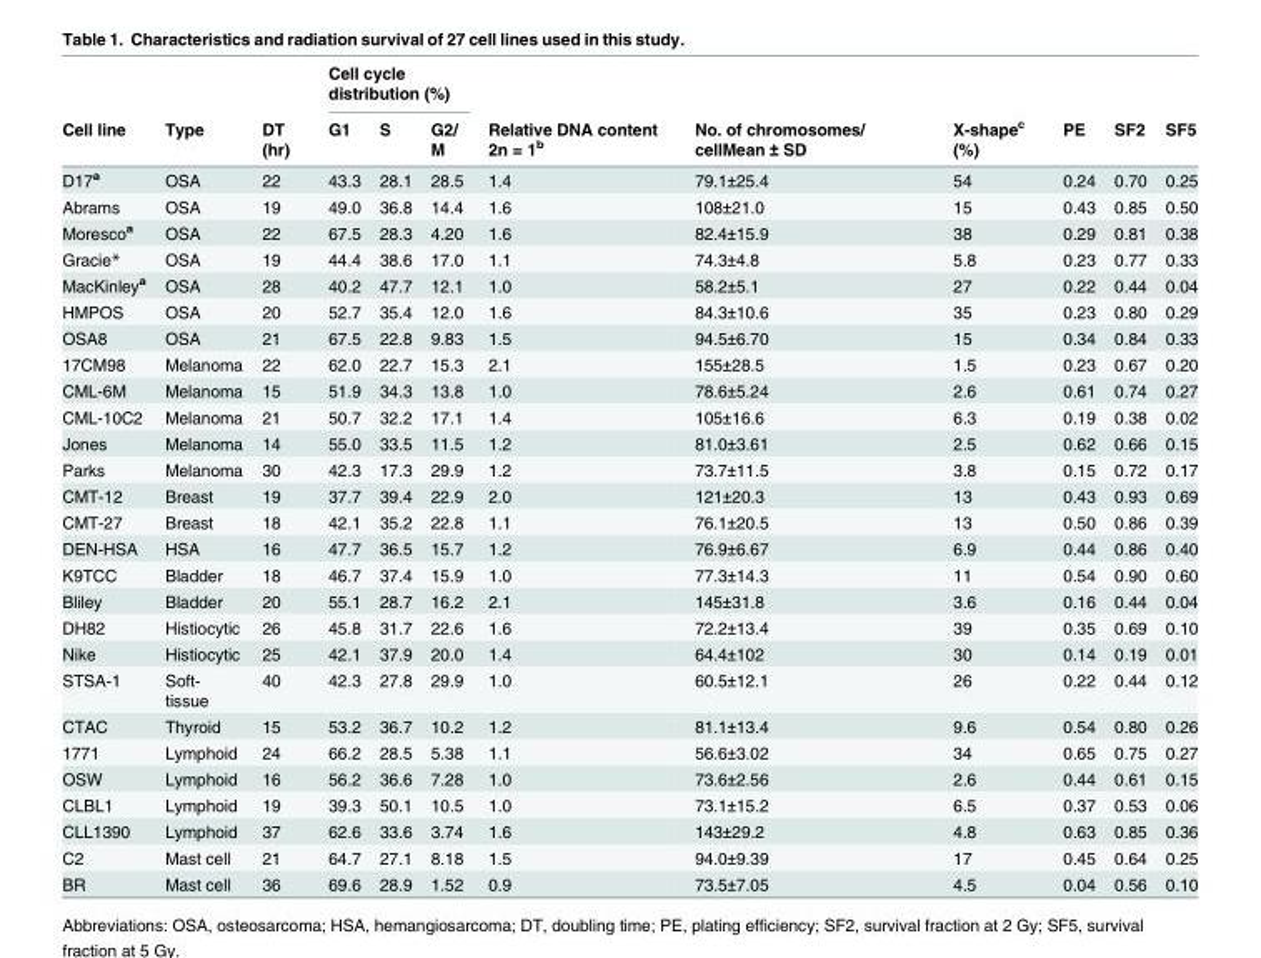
<table><thead><tr><td rowspan="2">Cell line</td><td rowspan="2">Type</td><td rowspan="2">DT (hr)</td><td colspan="3">Cell cycle distribution (%)</td><td rowspan="2">Relative DNA content 2n = 1<sup>b</sup></td><td rowspan="2">No. of chromosomes/ cellMean ± SD</td><td rowspan="2">X-shape<sup>c</sup> (%)</td><td rowspan="2">PE</td><td rowspan="2">SF2</td><td rowspan="2">SF5</td></tr><tr><td>G1</td><td>S</td><td>G2/ M</td></tr></thead><tbody><tr><td>D17<sup>a</sup></td><td>OSA</td><td>22</td><td>43.3</td><td>28.1</td><td>28.5</td><td>1.4</td><td>79.1±25.4</td><td>54</td><td>0.24</td><td>0.70</td><td>0.25</td></tr><tr><td>Abrams</td><td>OSA</td><td>19</td><td>49.0</td><td>36.8</td><td>14.4</td><td>1.6</td><td>108±21.0</td><td>15</td><td>0.43</td><td>0.85</td><td>0.50</td></tr><tr><td>Moresco<sup>a</sup></td><td>OSA</td><td>22</td><td>67.5</td><td>28.3</td><td>4.20</td><td>1.6</td><td>82.4±15.9</td><td>38</td><td>0.29</td><td>0.81</td><td>0.38</td></tr><tr><td>Gracie*</td><td>OSA</td><td>19</td><td>44.4</td><td>38.6</td><td>17.0</td><td>1.1</td><td>74.3±4.8</td><td>5.8</td><td>0.23</td><td>0.77</td><td>0.33</td></tr><tr><td>MacKinley<sup>a</sup></td><td>OSA</td><td>28</td><td>40.2</td><td>47.7</td><td>12.1</td><td>1.0</td><td>58.2±5.1</td><td>27</td><td>0.22</td><td>0.44</td><td>0.04</td></tr><tr><td>HMPOS</td><td>OSA</td><td>20</td><td>52.7</td><td>35.4</td><td>12.0</td><td>1.6</td><td>84.3±10.6</td><td>35</td><td>0.23</td><td>0.80</td><td>0.29</td></tr><tr><td>OSA8</td><td>OSA</td><td>21</td><td>67.5</td><td>22.8</td><td>9.83</td><td>1.5</td><td>94.5±6.70</td><td>15</td><td>0.34</td><td>0.84</td><td>0.33</td></tr><tr><td>17CM98</td><td>Melanoma</td><td>22</td><td>62.0</td><td>22.7</td><td>15.3</td><td>2.1</td><td>155±28.5</td><td>1.5</td><td>0.23</td><td>0.67</td><td>0.20</td></tr><tr><td>CML-6M</td><td>Melanoma</td><td>15</td><td>51.9</td><td>34.3</td><td>13.8</td><td>1.0</td><td>78.6±5.24</td><td>2.6</td><td>0.61</td><td>0.74</td><td>0.27</td></tr><tr><td>CML-10C2</td><td>Melanoma</td><td>21</td><td>50.7</td><td>32.2</td><td>17.1</td><td>1.4</td><td>105±16.6</td><td>6.3</td><td>0.19</td><td>0.38</td><td>0.02</td></tr><tr><td>Jones</td><td>Melanoma</td><td>14</td><td>55.0</td><td>33.5</td><td>11.5</td><td>1.2</td><td>81.0±3.61</td><td>2.5</td><td>0.62</td><td>0.66</td><td>0.15</td></tr><tr><td>Parks</td><td>Melanoma</td><td>30</td><td>42.3</td><td>17.3</td><td>29.9</td><td>1.2</td><td>73.7±11.5</td><td>3.8</td><td>0.15</td><td>0.72</td><td>0.17</td></tr><tr><td>CMT-12</td><td>Breast</td><td>19</td><td>37.7</td><td>39.4</td><td>22.9</td><td>2.0</td><td>121±20.3</td><td>13</td><td>0.43</td><td>0.93</td><td>0.69</td></tr><tr><td>CMT-27</td><td>Breast</td><td>18</td><td>42.1</td><td>35.2</td><td>22.8</td><td>1.1</td><td>76.1±20.5</td><td>13</td><td>0.50</td><td>0.86</td><td>0.39</td></tr><tr><td>DEN-HSA</td><td>HSA</td><td>16</td><td>47.7</td><td>36.5</td><td>15.7</td><td>1.2</td><td>76.9±6.67</td><td>6.9</td><td>0.44</td><td>0.86</td><td>0.40</td></tr><tr><td>K9TCC</td><td>Bladder</td><td>18</td><td>46.7</td><td>37.4</td><td>15.9</td><td>1.0</td><td>77.3±14.3</td><td>11</td><td>0.54</td><td>0.90</td><td>0.60</td></tr><tr><td>Bliley</td><td>Bladder</td><td>20</td><td>55.1</td><td>28.7</td><td>16.2</td><td>2.1</td><td>145±31.8</td><td>3.6</td><td>0.16</td><td>0.44</td><td>0.04</td></tr><tr><td>DH82</td><td>Histiocytic</td><td>26</td><td>45.8</td><td>31.7</td><td>22.6</td><td>1.6</td><td>72.2±13.4</td><td>39</td><td>0.35</td><td>0.69</td><td>0.10</td></tr><tr><td>Nike</td><td>Histiocytic</td><td>25</td><td>42.1</td><td>37.9</td><td>20.0</td><td>1.4</td><td>64.4±102</td><td>30</td><td>0.14</td><td>0.19</td><td>0.01</td></tr><tr><td>STSA-1</td><td>Soft- tissue</td><td>40</td><td>42.3</td><td>27.8</td><td>29.9</td><td>1.0</td><td>60.5±12.1</td><td>26</td><td>0.22</td><td>0.44</td><td>0.12</td></tr><tr><td>CTAC</td><td>Thyroid</td><td>15</td><td>53.2</td><td>36.7</td><td>10.2</td><td>1.2</td><td>81.1±13.4</td><td>9.6</td><td>0.54</td><td>0.80</td><td>0.26</td></tr><tr><td>1771</td><td>Lymphoid</td><td>24</td><td>66.2</td><td>28.5</td><td>5.38</td><td>1.1</td><td>56.6±3.02</td><td>34</td><td>0.65</td><td>0.75</td><td>0.27</td></tr><tr><td>OSW</td><td>Lymphoid</td><td>16</td><td>56.2</td><td>36.6</td><td>7.28</td><td>1.0</td><td>73.6±2.56</td><td>2.6</td><td>0.44</td><td>0.61</td><td>0.15</td></tr><tr><td>CLBL1</td><td>Lymphoid</td><td>19</td><td>39.3</td><td>50.1</td><td>10.5</td><td>1.0</td><td>73.1±15.2</td><td>6.5</td><td>0.37</td><td>0.53</td><td>0.06</td></tr><tr><td>CLL1390</td><td>Lymphoid</td><td>37</td><td>62.6</td><td>33.6</td><td>3.74</td><td>1.6</td><td>143±29.2</td><td>4.8</td><td>0.63</td><td>0.85</td><td>0.36</td></tr><tr><td>C2</td><td>Mast cell</td><td>21</td><td>64.7</td><td>27.1</td><td>8.18</td><td>1.5</td><td>94.0±9.39</td><td>17</td><td>0.45</td><td>0.64</td><td>0.25</td></tr><tr><td>BR</td><td>Mast cell</td><td>36</td><td>69.6</td><td>28.9</td><td>1.52</td><td>0.9</td><td>73.5±7.05</td><td>4.5</td><td>0.04</td><td>0.56</td><td>0.10</td></tr></tbody></table>